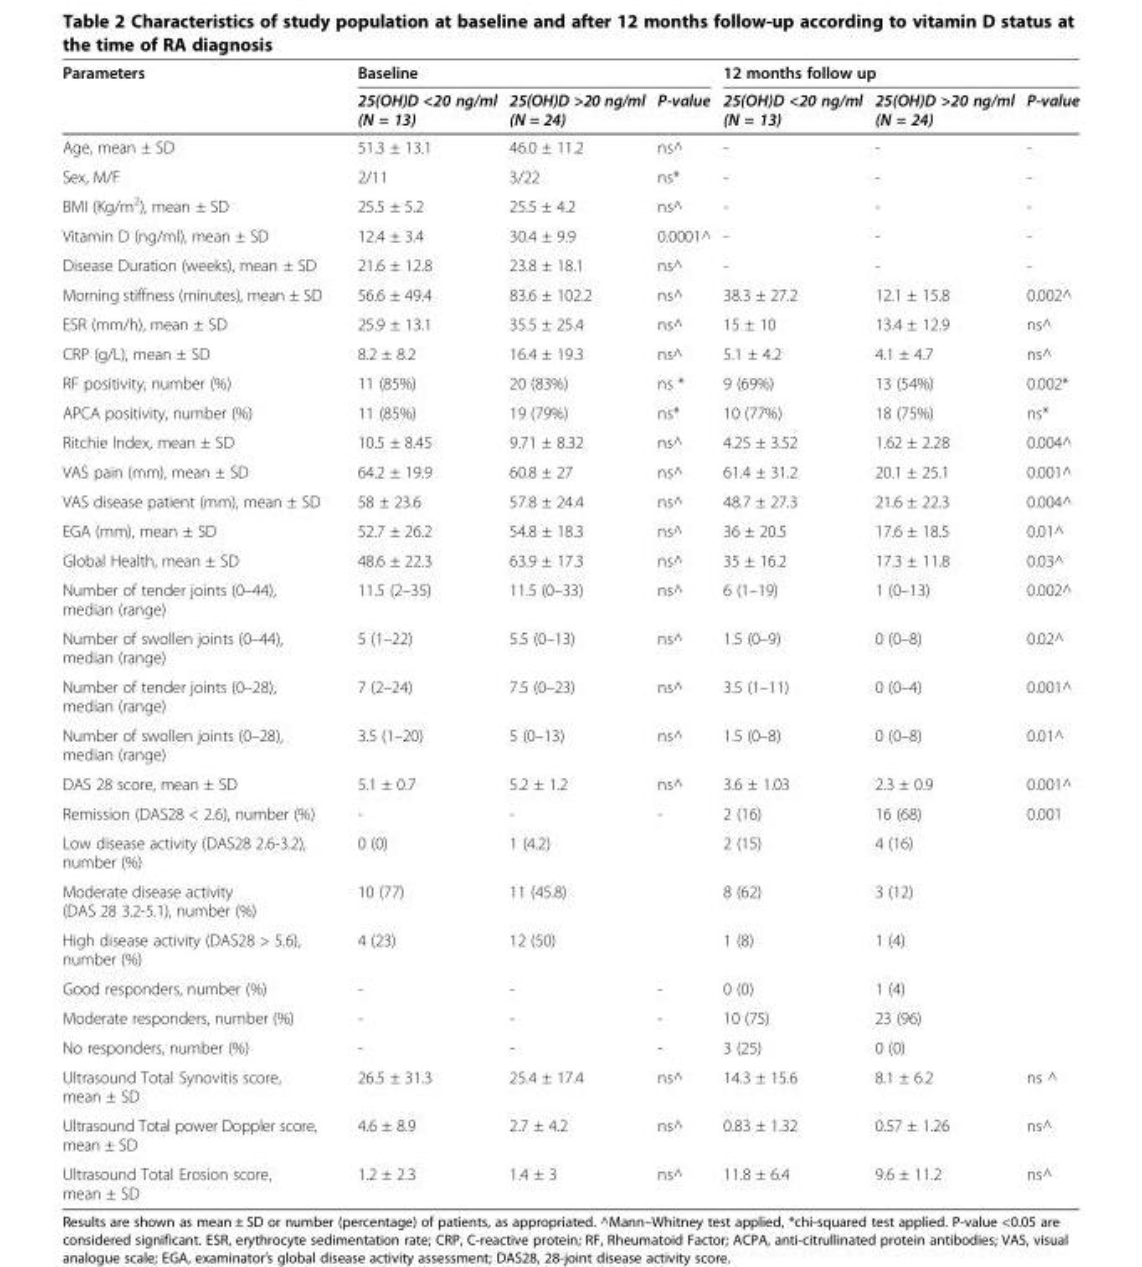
<table><thead><tr><td rowspan="2">Parameters</td><td colspan="3">Baseline</td><td colspan="3">12 months follow up</td></tr><tr><td>25(OH)D &lt;20 ng/ml (N = 13)</td><td>25(OH)D &gt;20 ng/ml (N = 24)</td><td>P-value</td><td>25(OH)D &lt;20 ng/ml (N = 13)</td><td>25(OH)D &gt;20 ng/ml (N = 24)</td><td>P-value</td></tr></thead><tbody><tr><td>Age, mean ± SD</td><td>51.3 ± 13.1</td><td>46.0 ± 11.2</td><td>ns^</td><td>-</td><td>-</td><td>-</td></tr><tr><td>Sex, M/F</td><td>2/11</td><td>3/22</td><td>ns*</td><td>-</td><td>-</td><td>-</td></tr><tr><td>BMI (Kg/m<sup>2</sup>), mean ± SD</td><td>25.5 ± 5.2</td><td>25.5 ± 4.2</td><td>ns^</td><td>-</td><td>-</td><td>-</td></tr><tr><td>Vitamin D (ng/ml), mean ± SD</td><td>12.4 ± 3.4</td><td>30.4 ± 9.9</td><td>0.0001^</td><td>-</td><td>-</td><td>-</td></tr><tr><td>Disease Duration (weeks), mean ± SD</td><td>21.6 ± 12.8</td><td>23.8 ± 18.1</td><td>ns^</td><td>-</td><td>-</td><td>-</td></tr><tr><td>Morning stiffness (minutes), mean ± SD</td><td>56.6 ± 49.4</td><td>83.6 ± 102.2</td><td>ns^</td><td>38.3 ± 27.2</td><td>12.1 ± 15.8</td><td>0.002^</td></tr><tr><td>ESR (mm/h), mean ± SD</td><td>25.9 ± 13.1</td><td>35.5 ± 25.4</td><td>ns^</td><td>15 ± 10</td><td>13.4 ± 12.9</td><td>ns^</td></tr><tr><td>CRP (g/L), mean ± SD</td><td>8.2 ± 8.2</td><td>16.4 ± 19.3</td><td>ns^</td><td>5.1 ± 4.2</td><td>4.1 ± 4.7</td><td>ns^</td></tr><tr><td>RF positivity, number (%)</td><td>11 (85%)</td><td>20 (83%)</td><td>ns *</td><td>9 (69%)</td><td>13 (54%)</td><td>0.002*</td></tr><tr><td>APCA positivity, number (%)</td><td>11 (85%)</td><td>19 (79%)</td><td>ns*</td><td>10 (77%)</td><td>18 (75%)</td><td>ns*</td></tr><tr><td>Ritchie Index, mean ± SD</td><td>10.5 ± 8.45</td><td>9.71 ± 8.32</td><td>ns^</td><td>4.25 ± 3.52</td><td>1.62 ± 2.28</td><td>0.004^</td></tr><tr><td>VAS pain (mm), mean ± SD</td><td>64.2 ± 19.9</td><td>60.8 ± 27</td><td>ns^</td><td>61.4 ± 31.2</td><td>20.1 ± 25.1</td><td>0.001^</td></tr><tr><td>VAS disease patient (mm), mean ± SD</td><td>58 ± 23.6</td><td>57.8 ± 24.4</td><td>ns^</td><td>48.7 ± 27.3</td><td>21.6 ± 22.3</td><td>0.004^</td></tr><tr><td>EGA (mm), mean ± SD</td><td>52.7 ± 26.2</td><td>54.8 ± 18.3</td><td>ns^</td><td>36 ± 20.5</td><td>17.6 ± 18.5</td><td>0.01^</td></tr><tr><td>Global Health, mean ± SD</td><td>48.6 ± 22.3</td><td>63.9 ± 17.3</td><td>ns^</td><td>35 ± 16.2</td><td>17.3 ± 11.8</td><td>0.03^</td></tr><tr><td>Number of tender joints (0–44), median (range)</td><td>11.5 (2–35)</td><td>11.5 (0–33)</td><td>ns^</td><td>6 (1–19)</td><td>1 (0–13)</td><td>0.002^</td></tr><tr><td>Number of swollen joints (0–44), median (range)</td><td>5 (1–22)</td><td>5.5 (0–13)</td><td>ns^</td><td>1.5 (0–9)</td><td>0 (0–8)</td><td>0.02^</td></tr><tr><td>Number of tender joints (0–28), median (range)</td><td>7 (2–24)</td><td>7.5 (0–23)</td><td>ns^</td><td>3.5 (1–11)</td><td>0 (0–4)</td><td>0.001^</td></tr><tr><td>Number of swollen joints (0–28), median (range)</td><td>3.5 (1–20)</td><td>5 (0–13)</td><td>ns^</td><td>1.5 (0–8)</td><td>0 (0–8)</td><td>0.01^</td></tr><tr><td>DAS 28 score, mean ± SD</td><td>5.1 ± 0.7</td><td>5.2 ± 1.2</td><td>ns^</td><td>3.6 ± 1.03</td><td>2.3 ± 0.9</td><td>0.001^</td></tr><tr><td>Remission (DAS28 &lt; 2.6), number (%)</td><td>-</td><td>-</td><td>-</td><td>2 (16)</td><td>16 (68)</td><td>0.001</td></tr><tr><td>Low disease activity (DAS28 2.6-3.2), number (%)</td><td>0 (0)</td><td>1 (4.2)</td><td></td><td>2 (15)</td><td>4 (16)</td><td></td></tr><tr><td>Moderate disease activity (DAS 28 3.2-5.1), number (%)</td><td>10 (77)</td><td>11 (45.8)</td><td></td><td>8 (62)</td><td>3 (12)</td><td></td></tr><tr><td>High disease activity (DAS28 &gt; 5.6), number (%)</td><td>4 (23)</td><td>12 (50)</td><td></td><td>1 (8)</td><td>1 (4)</td><td></td></tr><tr><td>Good responders, number (%)</td><td>-</td><td>-</td><td>-</td><td>0 (0)</td><td>1 (4)</td><td></td></tr><tr><td>Moderate responders, number (%)</td><td>-</td><td>-</td><td>-</td><td>10 (75)</td><td>23 (96)</td><td></td></tr><tr><td>No responders, number (%)</td><td>-</td><td>-</td><td>-</td><td>3 (25)</td><td>0 (0)</td><td></td></tr><tr><td>Ultrasound Total Synovitis score, mean ± SD</td><td>26.5 ± 31.3</td><td>25.4 ± 17.4</td><td>ns^</td><td>14.3 ± 15.6</td><td>8.1 ± 6.2</td><td>ns ^</td></tr><tr><td>Ultrasound Total power Doppler score, mean ± SD</td><td>4.6 ± 8.9</td><td>2.7 ± 4.2</td><td>ns^</td><td>0.83 ± 1.32</td><td>0.57 ± 1.26</td><td>ns^</td></tr><tr><td>Ultrasound Total Erosion score, mean ± SD</td><td>1.2 ± 2.3</td><td>1.4 ± 3</td><td>ns^</td><td>11.8 ± 6.4</td><td>9.6 ± 11.2</td><td>ns^</td></tr></tbody></table>